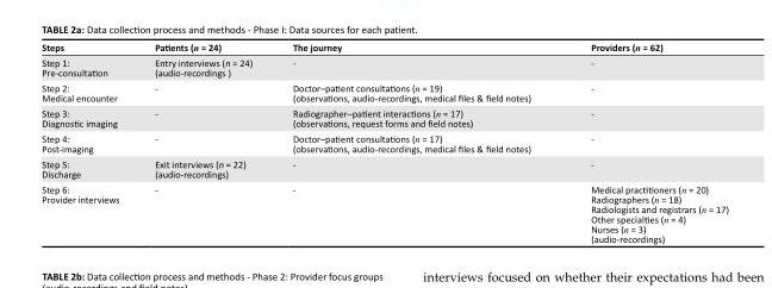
<table><thead><tr><td>Steps</td><td>Patients (n = 24)</td><td>The journey</td><td>Providers (n = 62)</td></tr></thead><tbody><tr><td>Step 1: Pre-consultation</td><td>Entry interviews (n = 24) (audio-recordings )</td><td>-</td><td>-</td></tr><tr><td>Step 2: Medical encounter</td><td>-</td><td>Doctor–patient consultations (n = 19) (observations, audio-recordings, medical files &amp; field notes)</td><td>-</td></tr><tr><td>Step 3: Diagnostic imaging</td><td>-</td><td>Radiographer–patient interactions (n = 17) (observations, request forms and field notes)</td><td>-</td></tr><tr><td>Step 4: Post-imaging</td><td>-</td><td>Doctor–patient consultations (n = 17) (observations, audio-recordings, medical files &amp; field notes)</td><td>-</td></tr><tr><td>Step 5: Discharge</td><td>Exit interviews (n = 22) (audio-recordings)</td><td>-</td><td>-</td></tr><tr><td>Step 6: Provider interviews</td><td>-</td><td>-</td><td>Medical practitioners (n = 20) Radiographers (n = 18) Radiologists and registrars (n = 17) Other specialties (n = 4) Nurses (n = 3) (audio-recordings)</td></tr></tbody></table>